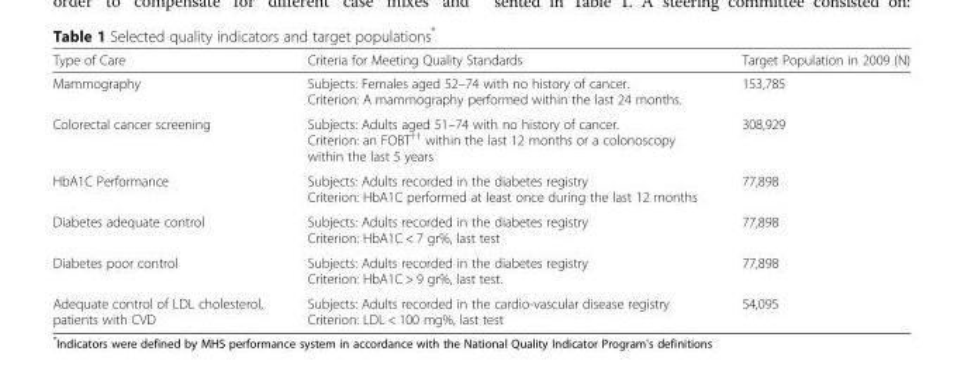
<table><thead><tr><td>Type of Care</td><td>Criteria for Meeting Quality Standards</td><td>Target Population in 2009 (N)</td></tr></thead><tbody><tr><td>Mammography</td><td>Subjects: Females aged 52–74 with no history of cancer. Criterion: A mammography performed within the last 24 months.</td><td>153,785</td></tr><tr><td>Colorectal cancer screening</td><td>Subjects: Adults aged 51–74 with no history of cancer. Criterion: an FOBT<sup>††</sup> within the last 12 months or a colonoscopy within the last 5 years</td><td>308,929</td></tr><tr><td>HbA1C Performance</td><td>Subjects: Adults recorded in the diabetes registry Criterion: HbA1C performed at least once during the last 12 months</td><td>77,898</td></tr><tr><td>Diabetes adequate control</td><td>Subjects: Adults recorded in the diabetes registry Criterion: HbA1C &lt; 7 gr%, last test</td><td>77,898</td></tr><tr><td>Diabetes poor control</td><td>Subjects: Adults recorded in the diabetes registry Criterion: HbA1C &gt; 9 gr%, last test.</td><td>77,898</td></tr><tr><td>Adequate control of LDL cholesterol, patients with CVD</td><td>Subjects: Adults recorded in the cardio-vascular disease registry Criterion: LDL &lt; 100 mg%, last test</td><td>54,095</td></tr></tbody></table>